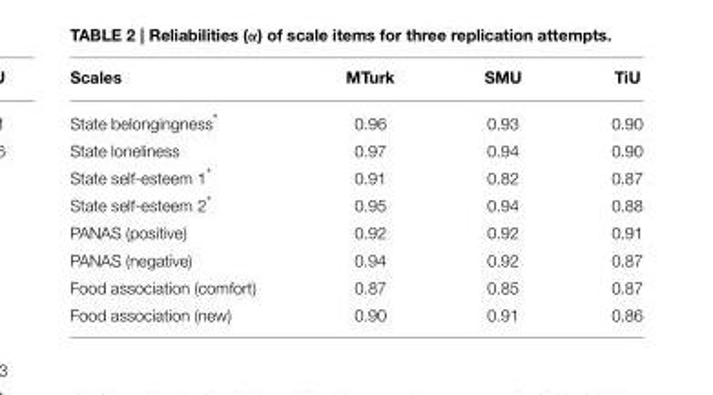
<table><thead><tr><td>Scales</td><td>MTurk</td><td>SMU</td><td>TiU</td></tr></thead><tbody><tr><td>State belongingness*</td><td>0.96</td><td>0.93</td><td>0.90</td></tr><tr><td>State loneliness</td><td>0.97</td><td>0.94</td><td>0.90</td></tr><tr><td>State self-esteem 1*</td><td>0.91</td><td>0.82</td><td>0.87</td></tr><tr><td>State self-esteem 2*</td><td>0.95</td><td>0.94</td><td>0.88</td></tr><tr><td>PANAS (positive)</td><td>0.92</td><td>0.92</td><td>0.91</td></tr><tr><td>PANAS (negative)</td><td>0.94</td><td>0.92</td><td>0.87</td></tr><tr><td>Food association (comfort)</td><td>0.87</td><td>0.85</td><td>0.87</td></tr><tr><td>Food association (new)</td><td>0.90</td><td>0.91</td><td>0.86</td></tr></tbody></table>